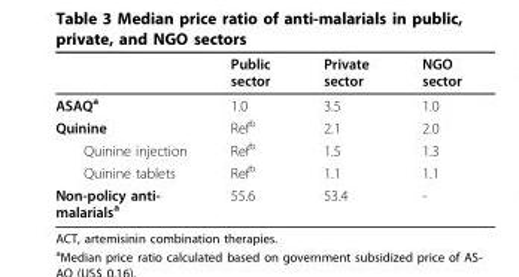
<table><thead><tr><td></td><td>Public sector</td><td>Private sector</td><td>NGO sector</td></tr></thead><tbody><tr><td>ASAQ<sup>a</sup></td><td>1.0</td><td>3.5</td><td>1.0</td></tr><tr><td>Quinine</td><td>Ref<sup>b</sup></td><td>2.1</td><td>2.0</td></tr><tr><td>Quinine injection</td><td>Ref<sup>b</sup></td><td>1.5</td><td>1.3</td></tr><tr><td>Quinine tablets</td><td>Ref<sup>b</sup></td><td>1.1</td><td>1.1</td></tr><tr><td>Non-policy anti- malarials<sup>a</sup></td><td>55.6</td><td>53.4</td><td>-</td></tr></tbody></table>